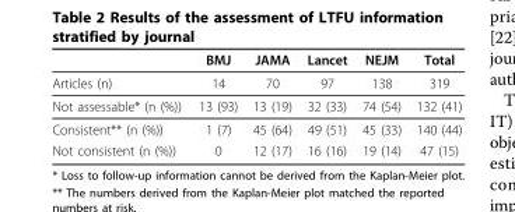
<table><thead><tr><td></td><td>BMJ</td><td>JAMA</td><td>Lancet</td><td>NEJM</td><td>Total</td></tr></thead><tbody><tr><td>Articles (n)</td><td>14</td><td>70</td><td>97</td><td>138</td><td>319</td></tr><tr><td>Not assessable* (n (%))</td><td>13 (93)</td><td>13 (19)</td><td>32 (33)</td><td>74 (54)</td><td>132 (41)</td></tr><tr><td>Consistent** (n (%))</td><td>1 (7)</td><td>45 (64)</td><td>49 (51)</td><td>45 (33)</td><td>140 (44)</td></tr><tr><td>Not consistent (n (%))</td><td>0</td><td>12 (17)</td><td>16 (16)</td><td>19 (14)</td><td>47 (15)</td></tr></tbody></table>